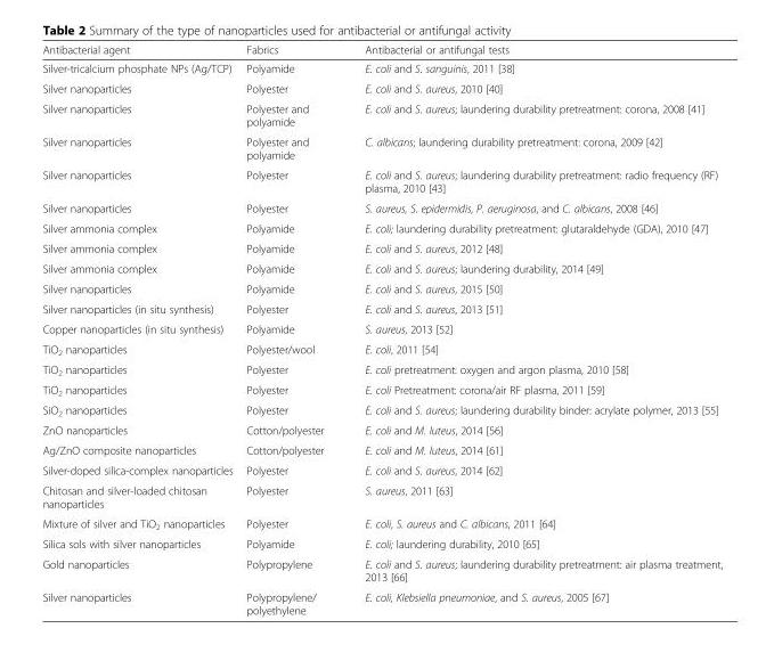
<table><thead><tr><td>Antibacterial agent</td><td>Fabrics</td><td>Antibacterial or antifungal tests</td></tr></thead><tbody><tr><td>Silver-tricalcium phosphate NPs (Ag/TCP)</td><td>Polyamide</td><td>E. coli and S. sanguinis, 2011 [38]</td></tr><tr><td>Silver nanoparticles</td><td>Polyester</td><td>E. coli and S. aureus, 2010 [40]</td></tr><tr><td>Silver nanoparticles</td><td>Polyester and polyamide</td><td>E. coli and S. aureus; laundering durability pretreatment: corona, 2008 [41]</td></tr><tr><td>Silver nanoparticles</td><td>Polyester and polyamide</td><td>C. albicans; laundering durability pretreatment: corona, 2009 [42]</td></tr><tr><td>Silver nanoparticles</td><td>Polyester</td><td>E. coli and S. aureus; laundering durability pretreatment: radio frequency (RF) plasma, 2010 [43]</td></tr><tr><td>Silver nanoparticles</td><td>Polyester</td><td>S. aureus, S. epidermidis, P. aeruginosa, and C. albicans, 2008 [46]</td></tr><tr><td>Silver ammonia complex</td><td>Polyamide</td><td>E. coli; laundering durability pretreatment: glutaraldehyde (GDA), 2010 [47]</td></tr><tr><td>Silver ammonia complex</td><td>Polyamide</td><td>E. coli and S. aureus, 2012 [48]</td></tr><tr><td>Silver ammonia complex</td><td>Polyamide</td><td>E. coli and S. aureus; laundering durability, 2014 [49]</td></tr><tr><td>Silver nanoparticles</td><td>Polyamide</td><td>E. coli and S. aureus, 2015 [50]</td></tr><tr><td>Silver nanoparticles (in situ synthesis)</td><td>Polyester</td><td>E. coli and S. aureus, 2013 [51]</td></tr><tr><td>Copper nanoparticles (in situ synthesis)</td><td>Polyamide</td><td>S. aureus, 2013 [52]</td></tr><tr><td>TiO<sub>2</sub> nanoparticles</td><td>Polyester/wool</td><td>E. coli, 2011 [54]</td></tr><tr><td>TiO<sub>2</sub> nanoparticles</td><td>Polyester</td><td>E. coli pretreatment: oxygen and argon plasma, 2010 [58]</td></tr><tr><td>TiO<sub>2</sub> nanoparticles</td><td>Polyester</td><td>E. coli Pretreatment: corona/air RF plasma, 2011 [59]</td></tr><tr><td>SiO<sub>2</sub> nanoparticles</td><td>Polyester</td><td>E. coli and S. aureus; laundering durability binder: acrylate polymer, 2013 [55]</td></tr><tr><td>ZnO nanoparticles</td><td>Cotton/polyester</td><td>E. coli and M. luteus, 2014 [56]</td></tr><tr><td>Ag/ZnO composite nanoparticles</td><td>Cotton/polyester</td><td>E. coli and M. luteus, 2014 [61]</td></tr><tr><td>Silver-doped silica-complex nanoparticles</td><td>Polyester</td><td>E. coli and S. aureus, 2014 [62]</td></tr><tr><td>Chitosan and silver-loaded chitosan nanoparticles</td><td>Polyester</td><td>S. aureus, 2011 [63]</td></tr><tr><td>Mixture of silver and TiO<sub>2</sub> nanoparticles</td><td>Polyester</td><td>E. coli, S. aureus and C. albicans, 2011 [64]</td></tr><tr><td>Silica sols with silver nanoparticles</td><td>Polyamide</td><td>E. coli; laundering durability, 2010 [65]</td></tr><tr><td>Gold nanoparticles</td><td>Polypropylene</td><td>E. coli and S. aureus; laundering durability pretreatment: air plasma treatment, 2013 [66]</td></tr><tr><td>Silver nanoparticles</td><td>Polypropylene/ polyethylene</td><td>E. coli, Klebsiella pneumoniae, and S. aureus, 2005 [67]</td></tr></tbody></table>